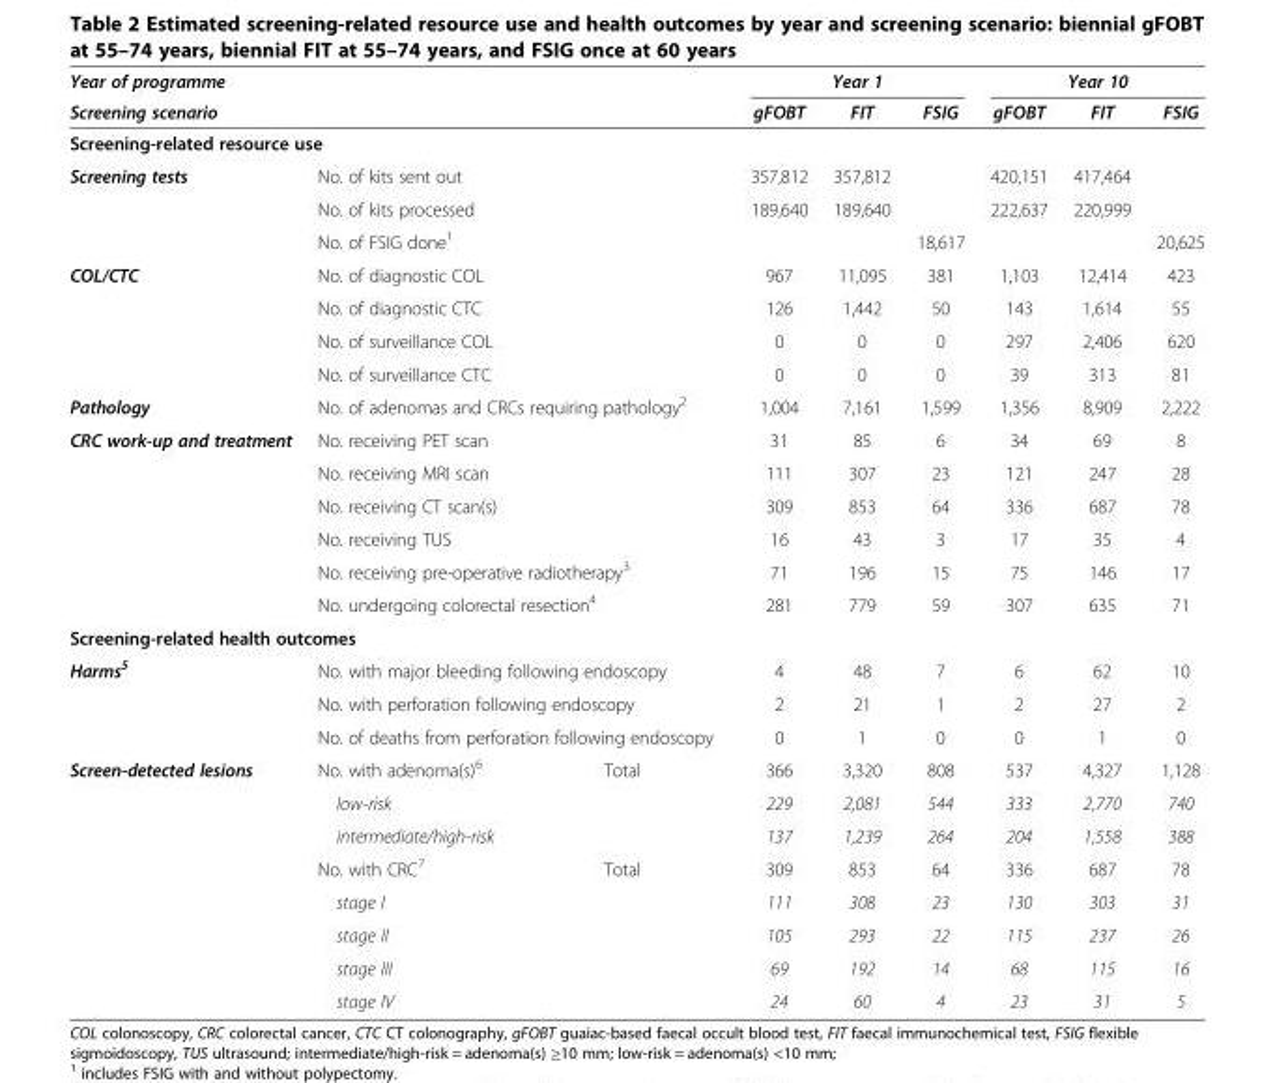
<table><thead><tr><td rowspan="2">Year of programme Screening scenario</td><td rowspan="2"></td><td rowspan="2"></td><td colspan="3">Year 1</td><td colspan="3">Year 10</td></tr><tr><td>gFOBT</td><td>FIT</td><td>FSIG</td><td>gFOBT</td><td>FIT</td><td>FSIG</td></tr></thead><tbody><tr><td colspan="9">Screening-related resource use</td></tr><tr><td rowspan="3">Screening tests</td><td colspan="2">No. of kits sent out</td><td>357,812</td><td>357,812</td><td></td><td>420,151</td><td>417,464</td><td></td></tr><tr><td colspan="2">No. of kits processed</td><td>189,640</td><td>189,640</td><td></td><td>222,637</td><td>220,999</td><td></td></tr><tr><td colspan="2">No. of FSIG done<sup>1</sup></td><td></td><td></td><td>18,617</td><td></td><td></td><td>20,625</td></tr><tr><td rowspan="4">COL/CTC</td><td colspan="2">No. of diagnostic COL</td><td>967</td><td>11,095</td><td>381</td><td>1,103</td><td>12,414</td><td>423</td></tr><tr><td colspan="2">No. of diagnostic CTC</td><td>126</td><td>1,442</td><td>50</td><td>143</td><td>1,614</td><td>55</td></tr><tr><td colspan="2">No. of surveillance COL</td><td>0</td><td>0</td><td>0</td><td>297</td><td>2,406</td><td>620</td></tr><tr><td colspan="2">No. of surveillance CTC</td><td>0</td><td>0</td><td>0</td><td>39</td><td>313</td><td>81</td></tr><tr><td>Pathology</td><td colspan="2">No. of adenomas and CRCs requiring pathology<sup>2</sup></td><td>1,004</td><td>7,161</td><td>1,599</td><td>1,356</td><td>8,909</td><td>2,222</td></tr><tr><td rowspan="6">CRC work-up and treatment</td><td colspan="2">No. receiving PET scan</td><td>31</td><td>85</td><td>6</td><td>34</td><td>69</td><td>8</td></tr><tr><td colspan="2">No. receiving MRI scan</td><td>111</td><td>307</td><td>23</td><td>121</td><td>247</td><td>28</td></tr><tr><td colspan="2">No. receiving CT scan(s)</td><td>309</td><td>853</td><td>64</td><td>336</td><td>687</td><td>78</td></tr><tr><td colspan="2">No. receiving TUS</td><td>16</td><td>43</td><td>3</td><td>17</td><td>35</td><td>4</td></tr><tr><td colspan="2">No. receiving pre-operative radiotherapy<sup>3</sup></td><td>71</td><td>196</td><td>15</td><td>75</td><td>146</td><td>17</td></tr><tr><td colspan="2">No. undergoing colorectal resection<sup>4</sup></td><td>281</td><td>779</td><td>59</td><td>307</td><td>635</td><td>71</td></tr><tr><td colspan="9">Screening-related health outcomes</td></tr><tr><td rowspan="3">Harms<sup>5</sup></td><td colspan="2">No. with major bleeding following endoscopy</td><td>4</td><td>48</td><td>7</td><td>6</td><td>62</td><td>10</td></tr><tr><td colspan="2">No. with perforation following endoscopy</td><td>2</td><td>21</td><td>1</td><td>2</td><td>27</td><td>2</td></tr><tr><td colspan="2">No. of deaths from perforation following endoscopy</td><td>0</td><td>1</td><td>0</td><td>0</td><td>1</td><td>0</td></tr><tr><td rowspan="8">Screen-detected lesions</td><td>No. with adenoma(s)<sup>6</sup></td><td>Total</td><td>366</td><td>3,320</td><td>808</td><td>537</td><td>4,327</td><td>1,128</td></tr><tr><td>low-risk</td><td></td><td>229</td><td>2,081</td><td>544</td><td>333</td><td>2,770</td><td>740</td></tr><tr><td>intermediate/high-risk</td><td></td><td>137</td><td>1,239</td><td>264</td><td>204</td><td>1,558</td><td>388</td></tr><tr><td>No. with CRC<sup>7</sup></td><td>Total</td><td>309</td><td>853</td><td>64</td><td>336</td><td>687</td><td>78</td></tr><tr><td>stage I</td><td></td><td>111</td><td>308</td><td>23</td><td>130</td><td>303</td><td>31</td></tr><tr><td>stage II</td><td></td><td>105</td><td>293</td><td>22</td><td>115</td><td>237</td><td>26</td></tr><tr><td>stage III</td><td></td><td>69</td><td>192</td><td>14</td><td>68</td><td>115</td><td>16</td></tr><tr><td>stage IV</td><td></td><td>24</td><td>60</td><td>4</td><td>23</td><td>31</td><td>5</td></tr></tbody></table>